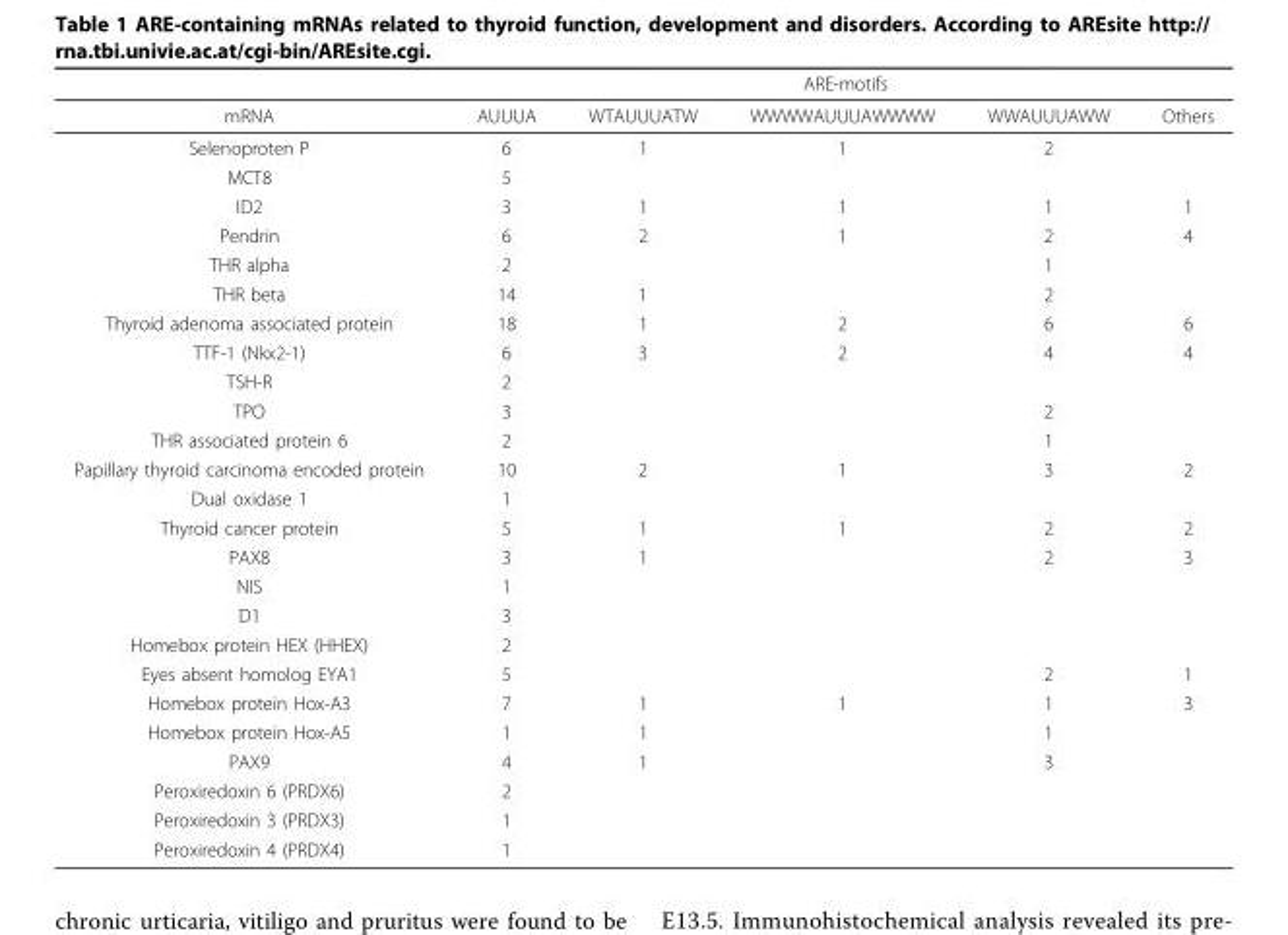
<table><thead><tr><td rowspan="2">mRNA</td><td colspan="5">ARE-motifs</td></tr><tr><td>AUUUA</td><td>WTAUUUATW</td><td>WWWWAUUUAWWWW</td><td>WWAUUUAWW</td><td>Others</td></tr></thead><tbody><tr><td>Selenoproten P</td><td>6</td><td>1</td><td>1</td><td>2</td><td></td></tr><tr><td>MCT8</td><td>5</td><td></td><td></td><td></td><td></td></tr><tr><td>ID2</td><td>3</td><td>1</td><td>1</td><td>1</td><td>1</td></tr><tr><td>Pendrin</td><td>6</td><td>2</td><td>1</td><td>2</td><td>4</td></tr><tr><td>THR alpha</td><td>2</td><td></td><td></td><td>1</td><td></td></tr><tr><td>THR beta</td><td>14</td><td>1</td><td></td><td>2</td><td></td></tr><tr><td>Thyroid adenoma associated protein</td><td>18</td><td>1</td><td>2</td><td>6</td><td>6</td></tr><tr><td>TTF-1 (Nkx2-1)</td><td>6</td><td>3</td><td>2</td><td>4</td><td>4</td></tr><tr><td>TSH-R</td><td>2</td><td></td><td></td><td></td><td></td></tr><tr><td>TPO</td><td>3</td><td></td><td></td><td>2</td><td></td></tr><tr><td>THR associated protein 6</td><td>2</td><td></td><td></td><td>1</td><td></td></tr><tr><td>Papillary thyroid carcinoma encoded protein</td><td>10</td><td>2</td><td>1</td><td>3</td><td>2</td></tr><tr><td>Dual oxidase 1</td><td>1</td><td></td><td></td><td></td><td></td></tr><tr><td>Thyroid cancer protein</td><td>5</td><td>1</td><td>1</td><td>2</td><td>2</td></tr><tr><td>PAX8</td><td>3</td><td>1</td><td></td><td>2</td><td>3</td></tr><tr><td>NIS</td><td>1</td><td></td><td></td><td></td><td></td></tr><tr><td>D1</td><td>3</td><td></td><td></td><td></td><td></td></tr><tr><td>Homebox protein HEX (HHEX)</td><td>2</td><td></td><td></td><td></td><td></td></tr><tr><td>Eyes absent homolog EYA1</td><td>5</td><td></td><td></td><td>2</td><td>1</td></tr><tr><td>Homebox protein Hox-A3</td><td>7</td><td>1</td><td>1</td><td>1</td><td>3</td></tr><tr><td>Homebox protein Hox-A5</td><td>1</td><td>1</td><td></td><td>1</td><td></td></tr><tr><td>PAX9</td><td>4</td><td>1</td><td></td><td>3</td><td></td></tr><tr><td>Peroxiredoxin 6 (PRDX6)</td><td>2</td><td></td><td></td><td></td><td></td></tr><tr><td>Peroxiredoxin 3 (PRDX3)</td><td>1</td><td></td><td></td><td></td><td></td></tr><tr><td>Peroxiredoxin 4 (PRDX4)</td><td>1</td><td></td><td></td><td></td><td></td></tr></tbody></table>